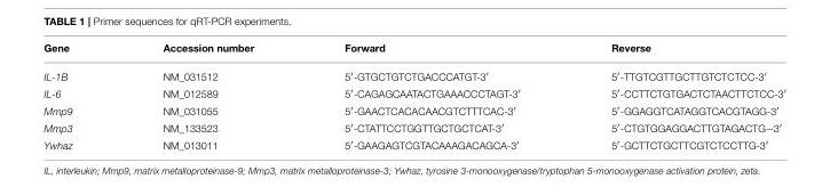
<table><thead><tr><td>Gene</td><td>Accession number</td><td>Forward</td><td>Reverse</td></tr></thead><tbody><tr><td>IL-1B</td><td>NM_031512</td><td>5′-GTGCTGTCTGACCCATGT-3′</td><td>5′-TTGTCGTTGCTTGTCTCTCC-3′</td></tr><tr><td>IL-6</td><td>NM_012589</td><td>5′-CAGAGCAATACTGAAACCCTAGT-3′</td><td>5′-CCTTCTGTGACTCTAACTTCTCC-3′</td></tr><tr><td>Mmp9</td><td>NM_031055</td><td>5′-GAACTCACACAACGTCTTTCAC-3′</td><td>5′-GGAGGTCATAGGTCACGTAGG-3′</td></tr><tr><td>Mmp3</td><td>NM_133523</td><td>5′-CTATTCCTGGTTGCTGCTCAT-3′</td><td>5′-CTGTGGAGGACTTGTAGACTG−3′</td></tr><tr><td>Ywhaz</td><td>NM_013011</td><td>5′-GAAGAGTCGTACAAAGACAGCA-3′</td><td>5′-GCTTCTGCTTCGTCTCCTTG-3′</td></tr></tbody></table>